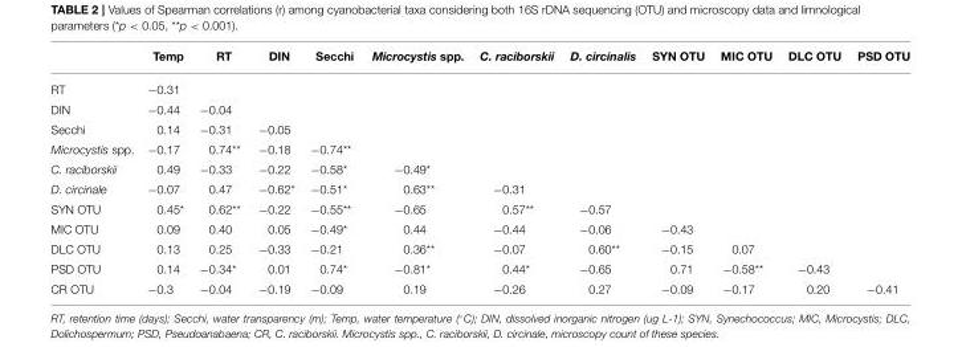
<table><thead><tr><td></td><td>Temp</td><td>RT</td><td>DIN</td><td>Secchi</td><td>Microcystis spp.</td><td>C. raciborskii</td><td>D. circinalis</td><td>SYN OTU</td><td>MIC OTU</td><td>DLC OTU</td><td>PSD OTU</td></tr></thead><tbody><tr><td>RT</td><td>−0.31</td><td></td><td></td><td></td><td></td><td></td><td></td><td></td><td></td><td></td><td></td></tr><tr><td>DIN</td><td>−0.44</td><td>−0.04</td><td></td><td></td><td></td><td></td><td></td><td></td><td></td><td></td><td></td></tr><tr><td>Secchi</td><td>0.14</td><td>−0.31</td><td>−0.05</td><td></td><td></td><td></td><td></td><td></td><td></td><td></td><td></td></tr><tr><td>Microcystis spp.</td><td>−0.17</td><td>0.74**</td><td>−0.18</td><td>−0.74**</td><td></td><td></td><td></td><td></td><td></td><td></td><td></td></tr><tr><td>C. raciborskii</td><td>0.49</td><td>−0.33</td><td>−0.22</td><td>−0.58*</td><td>−0.49*</td><td></td><td></td><td></td><td></td><td></td><td></td></tr><tr><td>D. circinale</td><td>−0.07</td><td>0.47</td><td>−0.62*</td><td>−0.51*</td><td>0.63**</td><td>−0.31</td><td></td><td></td><td></td><td></td><td></td></tr><tr><td>SYN OTU</td><td>0.45*</td><td>0.62**</td><td>−0.22</td><td>−0.55**</td><td>−0.65</td><td>0.57**</td><td>−0.57</td><td></td><td></td><td></td><td></td></tr><tr><td>MIC OTU</td><td>0.09</td><td>0.40</td><td>0.05</td><td>−0.49*</td><td>0.44</td><td>−0.44</td><td>−0.06</td><td>−0.43</td><td></td><td></td><td></td></tr><tr><td>DLC OTU</td><td>0.13</td><td>0.25</td><td>−0.33</td><td>−0.21</td><td>0.36**</td><td>−0.07</td><td>0.60**</td><td>−0.15</td><td>0.07</td><td></td><td></td></tr><tr><td>PSD OTU</td><td>0.14</td><td>−0.34*</td><td>0.01</td><td>0.74*</td><td>−0.81*</td><td>0.44*</td><td>−0.65</td><td>0.71</td><td>−0.58**</td><td>−0.43</td><td></td></tr><tr><td>CR OTU</td><td>−0.3</td><td>−0.04</td><td>−0.19</td><td>−0.09</td><td>0.19</td><td>−0.26</td><td>0.27</td><td>−0.09</td><td>−0.17</td><td>0.20</td><td>−0.41</td></tr></tbody></table>